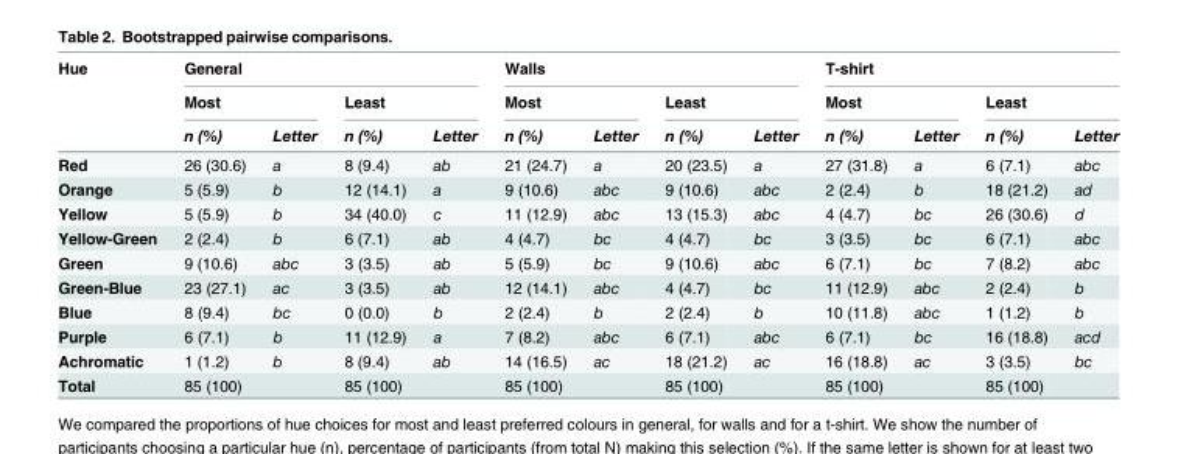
<table><thead><tr><td rowspan="3">Hue</td><td colspan="4">General</td><td colspan="4">Walls</td><td colspan="4">T-shirt</td></tr><tr><td colspan="2">Most</td><td colspan="2">Least</td><td colspan="2">Most</td><td colspan="2">Least</td><td colspan="2">Most</td><td colspan="2">Least</td></tr><tr><td>n (%)</td><td>Letter</td><td>n (%)</td><td>Letter</td><td>n (%)</td><td>Letter</td><td>n (%)</td><td>Letter</td><td>n (%)</td><td>Letter</td><td>n (%)</td><td>Letter</td></tr></thead><tbody><tr><td>Red</td><td>26 (30.6)</td><td>a</td><td>8 (9.4)</td><td>ab</td><td>21 (24.7)</td><td>a</td><td>20 (23.5)</td><td>a</td><td>27 (31.8)</td><td>a</td><td>6 (7.1)</td><td>abc</td></tr><tr><td>Orange</td><td>5 (5.9)</td><td>b</td><td>12 (14.1)</td><td>a</td><td>9 (10.6)</td><td>abc</td><td>9 (10.6)</td><td>abc</td><td>2 (2.4)</td><td>b</td><td>18 (21.2)</td><td>ad</td></tr><tr><td>Yellow</td><td>5 (5.9)</td><td>b</td><td>34 (40.0)</td><td>c</td><td>11 (12.9)</td><td>abc</td><td>13 (15.3)</td><td>abc</td><td>4 (4.7)</td><td>bc</td><td>26 (30.6)</td><td>d</td></tr><tr><td>Yellow-Green</td><td>2 (2.4)</td><td>b</td><td>6 (7.1)</td><td>ab</td><td>4 (4.7)</td><td>bc</td><td>4 (4.7)</td><td>bc</td><td>3 (3.5)</td><td>bc</td><td>6 (7.1)</td><td>abc</td></tr><tr><td>Green</td><td>9 (10.6)</td><td>abc</td><td>3 (3.5)</td><td>ab</td><td>5 (5.9)</td><td>bc</td><td>9 (10.6)</td><td>abc</td><td>6 (7.1)</td><td>bc</td><td>7 (8.2)</td><td>abc</td></tr><tr><td>Green-Blue</td><td>23 (27.1)</td><td>ac</td><td>3 (3.5)</td><td>ab</td><td>12 (14.1)</td><td>abc</td><td>4 (4.7)</td><td>bc</td><td>11 (12.9)</td><td>abc</td><td>2 (2.4)</td><td>b</td></tr><tr><td>Blue</td><td>8 (9.4)</td><td>bc</td><td>0 (0.0)</td><td>b</td><td>2 (2.4)</td><td>b</td><td>2 (2.4)</td><td>b</td><td>10 (11.8)</td><td>abc</td><td>1 (1.2)</td><td>b</td></tr><tr><td>Purple</td><td>6 (7.1)</td><td>b</td><td>11 (12.9)</td><td>a</td><td>7 (8.2)</td><td>abc</td><td>6 (7.1)</td><td>abc</td><td>6 (7.1)</td><td>bc</td><td>16 (18.8)</td><td>acd</td></tr><tr><td>Achromatic</td><td>1 (1.2)</td><td>b</td><td>8 (9.4)</td><td>ab</td><td>14 (16.5)</td><td>ac</td><td>18 (21.2)</td><td>ac</td><td>16 (18.8)</td><td>ac</td><td>3 (3.5)</td><td>bc</td></tr><tr><td>Total</td><td>85 (100)</td><td></td><td>85 (100)</td><td></td><td>85 (100)</td><td></td><td>85 (100)</td><td></td><td>85 (100)</td><td></td><td>85 (100)</td><td></td></tr></tbody></table>